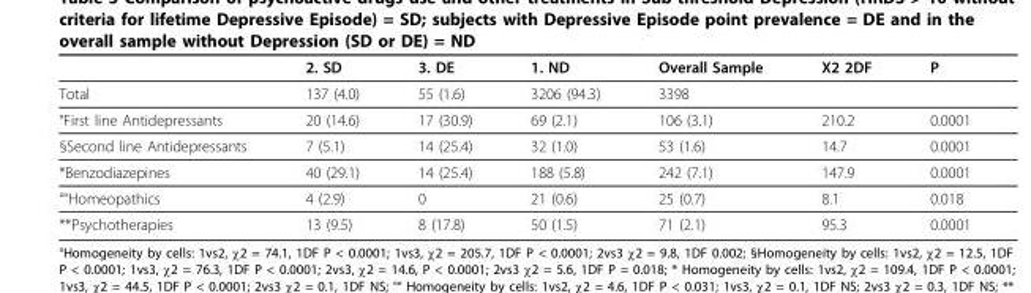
<table><thead><tr><td></td><td>2. SD</td><td>3. DE</td><td>1. ND</td><td>Overall Sample</td><td>Χ2 2DF</td><td>P</td></tr></thead><tbody><tr><td>Total</td><td>137 (4.0)</td><td>55 (1.6)</td><td>3206 (94.3)</td><td>3398</td><td></td><td></td></tr><tr><td>°First line Antidepressants</td><td>20 (14.6)</td><td>17 (30.9)</td><td>69 (2.1)</td><td>106 (3.1)</td><td>210.2</td><td>0.0001</td></tr><tr><td>§Second line Antidepressants</td><td>7 (5.1)</td><td>14 (25.4)</td><td>32 (1.0)</td><td>53 (1.6)</td><td>14.7</td><td>0.0001</td></tr><tr><td>*Benzodiazepines</td><td>40 (29.1)</td><td>14 (25.4)</td><td>188 (5.8)</td><td>242 (7.1)</td><td>147.9</td><td>0.0001</td></tr><tr><td>°°Homeopathics</td><td>4 (2.9)</td><td>0</td><td>21 (0.6)</td><td>25 (0.7)</td><td>8.1</td><td>0.018</td></tr><tr><td>**Psychotherapies</td><td>13 (9.5)</td><td>8 (17.8)</td><td>50 (1.5)</td><td>71 (2.1)</td><td>95.3</td><td>0.0001</td></tr></tbody></table>